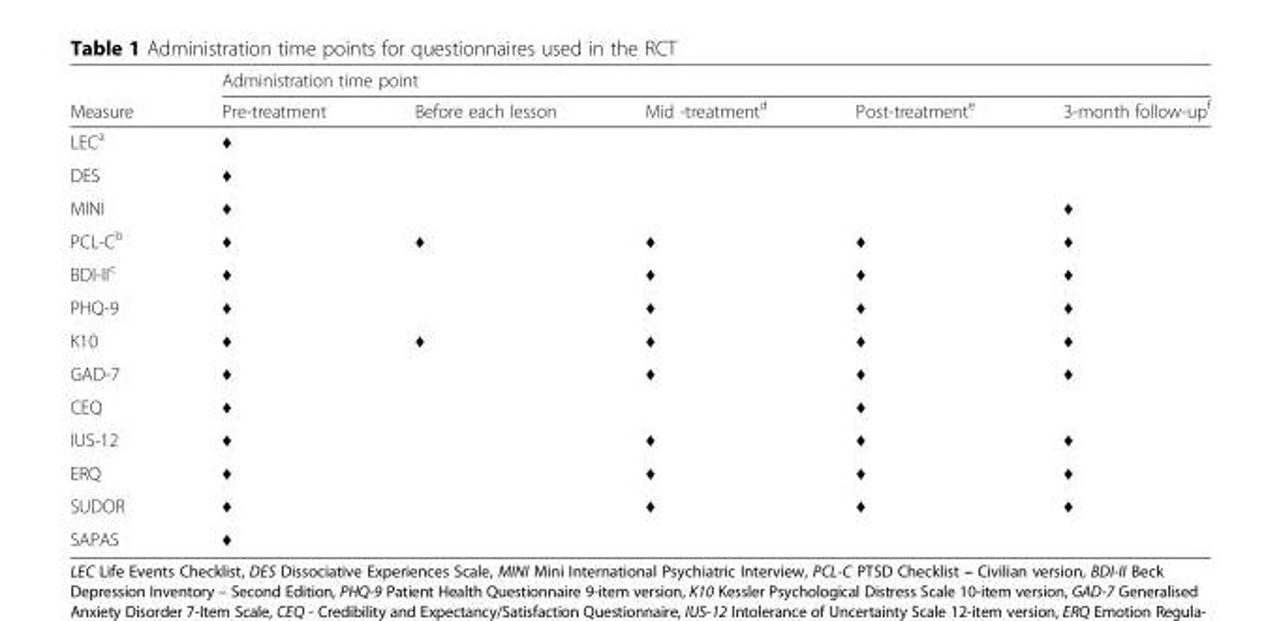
<table><thead><tr><td rowspan="2">Measure</td><td colspan="5">Administration time point</td></tr><tr><td>Pre-treatment</td><td>Before each lesson</td><td>Mid -treatment<sup>d</sup></td><td>Post-treatment<sup>e</sup></td><td>3-month follow-up<sup>f</sup></td></tr></thead><tbody><tr><td>LEC<sup>a</sup></td><td>♦</td><td></td><td></td><td></td><td></td></tr><tr><td>DES</td><td>♦</td><td></td><td></td><td></td><td></td></tr><tr><td>MINI</td><td>♦</td><td></td><td></td><td></td><td>♦</td></tr><tr><td>PCL-C<sup>b</sup></td><td>♦</td><td>♦</td><td>♦</td><td>♦</td><td>♦</td></tr><tr><td>BDI-II<sup>c</sup></td><td>♦</td><td></td><td>♦</td><td>♦</td><td>♦</td></tr><tr><td>PHQ-9</td><td>♦</td><td></td><td>♦</td><td>♦</td><td>♦</td></tr><tr><td>K10</td><td>♦</td><td>♦</td><td>♦</td><td>♦</td><td>♦</td></tr><tr><td>GAD-7</td><td>♦</td><td></td><td>♦</td><td>♦</td><td>♦</td></tr><tr><td>CEQ</td><td>♦</td><td></td><td></td><td>♦</td><td></td></tr><tr><td>IUS-12</td><td>♦</td><td></td><td>♦</td><td>♦</td><td>♦</td></tr><tr><td>ERQ</td><td>♦</td><td></td><td>♦</td><td>♦</td><td>♦</td></tr><tr><td>SUDOR</td><td>♦</td><td></td><td>♦</td><td>♦</td><td>♦</td></tr><tr><td>SAPAS</td><td>♦</td><td></td><td></td><td></td><td></td></tr></tbody></table>